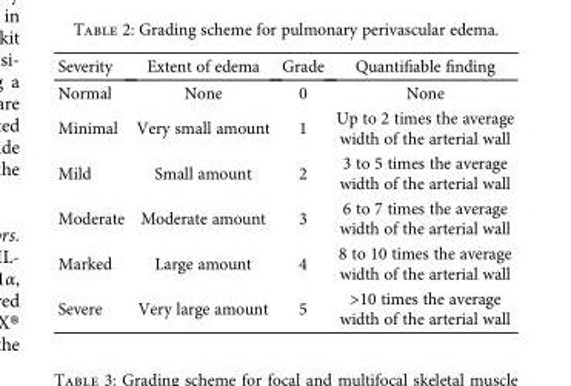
<table><thead><tr><td>Severity</td><td>Extent of edema</td><td>Grade</td><td>Quantifiable finding</td></tr></thead><tbody><tr><td>Normal</td><td>None</td><td>0</td><td>None</td></tr><tr><td>Minimal</td><td>Very small amount</td><td>1</td><td>Up to 2 times the average width of the arterial wall</td></tr><tr><td>Mild</td><td>Small amount</td><td>2</td><td>3 to 5 times the average width of the arterial wall</td></tr><tr><td>Moderate</td><td>Moderate amount</td><td>3</td><td>6 to 7 times the average width of the arterial wall</td></tr><tr><td>Marked</td><td>Large amount</td><td>4</td><td>8 to 10 times the average width of the arterial wall</td></tr><tr><td>Severe</td><td>Very large amount</td><td>5</td><td>&gt;10 times the average width of the arterial wall</td></tr></tbody></table>